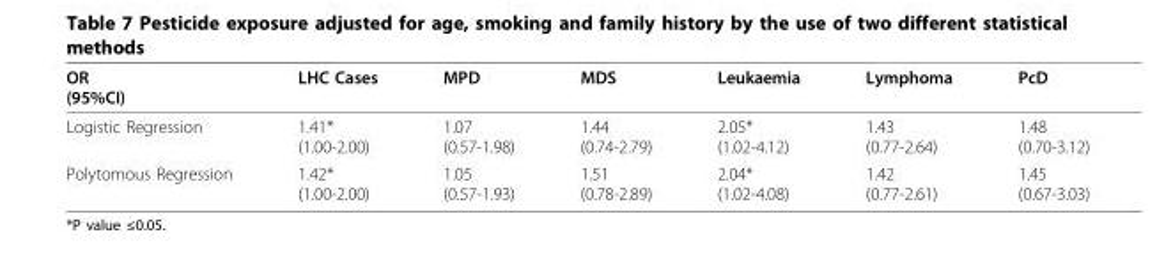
<table><thead><tr><td>OR (95%CI)</td><td>LHC Cases</td><td>MPD</td><td>MDS</td><td>Leukaemia</td><td>Lymphoma</td><td>PcD</td></tr></thead><tbody><tr><td>Logistic Regression</td><td>1.41* (1.00-2.00)</td><td>1.07 (0.57-1.98)</td><td>1.44 (0.74-2.79)</td><td>2.05* (1.02-4.12)</td><td>1.43 (0.77-2.64)</td><td>1.48 (0.70-3.12)</td></tr><tr><td>Polytomous Regression</td><td>1.42* (1.00-2.00)</td><td>1.05 (0.57-1.93)</td><td>1.51 (0.78-2.89)</td><td>2.04* (1.02-4.08)</td><td>1.42 (0.77-2.61)</td><td>1.45 (0.67-3.03)</td></tr></tbody></table>